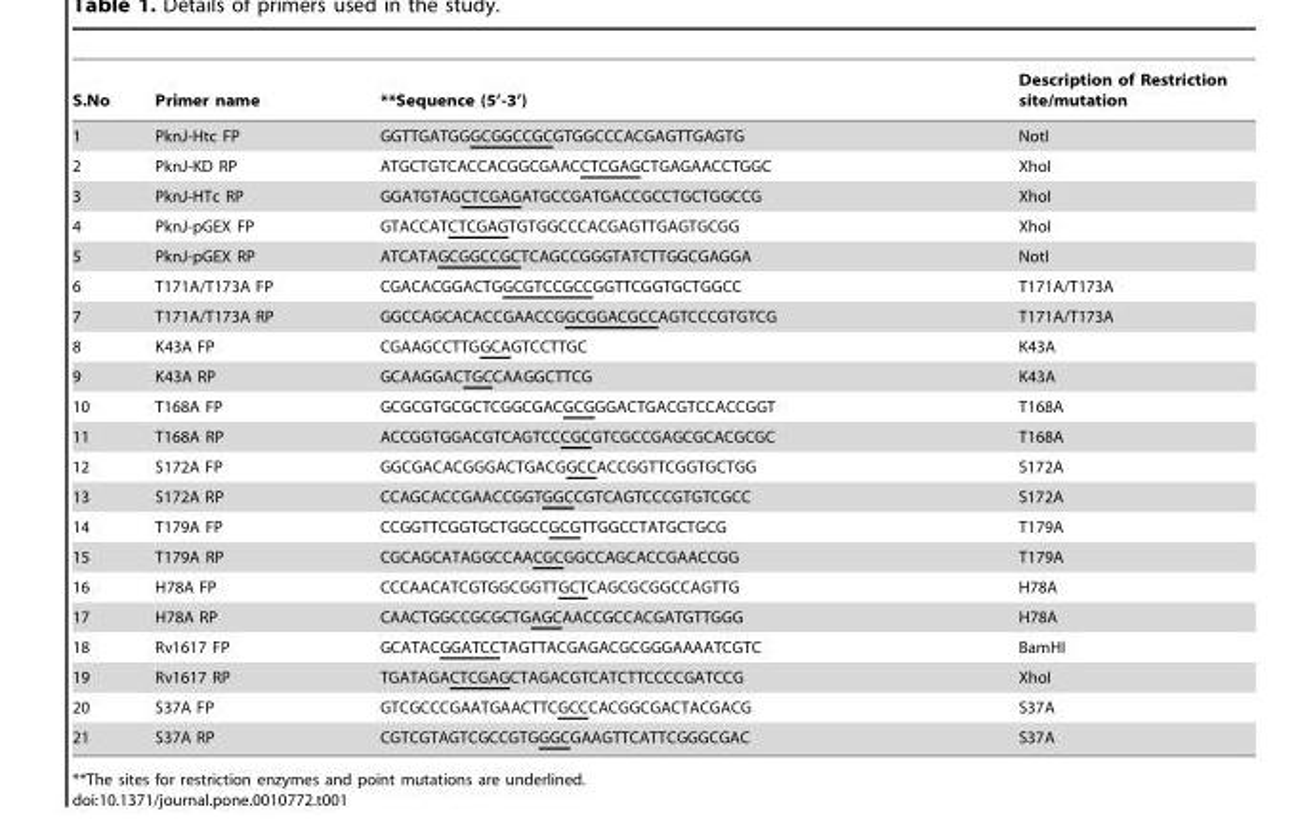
<table><thead><tr><td>S.No</td><td>Primer name</td><td>**Sequence (5’-3’)</td><td>Description of Restriction site/mutation</td></tr></thead><tbody><tr><td>1</td><td>PknJ-Htc FP</td><td>GGTTGATGGGCGGCCGCGTGGCCCACGAGTTGAGTG</td><td>NotI</td></tr><tr><td>2</td><td>PknJ-KD RP</td><td>ATGCTGTCACCACGGCGAACCTCGAGCTGAGAACCTGGC</td><td>XhoI</td></tr><tr><td>3</td><td>PknJ-HTc RP</td><td>GGATGTAGCTCGAGATGCCGATGACCGCCTGCTGGCCG</td><td>XhoI</td></tr><tr><td>4</td><td>PknJ-pGEX FP</td><td>GTACCATCTCGAGTGTGGCCCACGAGTTGAGTGCGG</td><td>XhoI</td></tr><tr><td>5</td><td>PknJ-pGEX RP</td><td>ATCATAGCGGCCGCTCAGCCGGGTATCTTGGCGAGGA</td><td>NotI</td></tr><tr><td>6</td><td>T171A/T173A FP</td><td>CGACACGGACTGGCGTCCGCCGGTTCGGTGCTGGCC</td><td>T171A/T173A</td></tr><tr><td>7</td><td>T171A/T173A RP</td><td>GGCCAGCACACCGAACCGGCGGACGCCAGTCCCGTGTCG</td><td>T171A/T173A</td></tr><tr><td>8</td><td>K43A FP</td><td>CGAAGCCTTGGCAGTCCTTGC</td><td>K43A</td></tr><tr><td>9</td><td>K43A RP</td><td>GCAAGGACTGCCAAGGCTTCG</td><td>K43A</td></tr><tr><td>10</td><td>T168A FP</td><td>GCGCGTGCGCTCGGCGACGCGGGACTGACGTCCACCGGT</td><td>T168A</td></tr><tr><td>11</td><td>T168A RP</td><td>ACCGGTGGACGTCAGTCCCGCGTCGCCGAGCGCACGCGC</td><td>T168A</td></tr><tr><td>12</td><td>S172A FP</td><td>GGCGACACGGGACTGACGGCCACCGGTTCGGTGCTGG</td><td>S172A</td></tr><tr><td>13</td><td>S172A RP</td><td>CCAGCACCGAACCGGTGGCCGTCAGTCCCGTGTCGCC</td><td>S172A</td></tr><tr><td>14</td><td>T179A FP</td><td>CCGGTTCGGTGCTGGCCGCGTTGGCCTATGCTGCG</td><td>T179A</td></tr><tr><td>15</td><td>T179A RP</td><td>CGCAGCATAGGCCAACGCGGCCAGCACCGAACCGG</td><td>T179A</td></tr><tr><td>16</td><td>H78A FP</td><td>CCCAACATCGTGGCGGTTGCTCAGCGCGGCCAGTTG</td><td>H78A</td></tr><tr><td>17</td><td>H78A RP</td><td>CAACTGGCCGCGCTGAGCAACCGCCACGATGTTGGG</td><td>H78A</td></tr><tr><td>18</td><td>Rv1617 FP</td><td>GCATACGGATCCTAGTTACGAGACGCGGGAAAATCGTC</td><td>BamHI</td></tr><tr><td>19</td><td>Rv1617 RP</td><td>TGATAGACTCGAGCTAGACGTCATCTTCCCCGATCCG</td><td>XhoI</td></tr><tr><td>20</td><td>S37A FP</td><td>GTCGCCCGAATGAACTTCGCCCACGGCGACTACGACG</td><td>S37A</td></tr><tr><td>21</td><td>S37A RP</td><td>CGTCGTAGTCGCCGTGGGCGAAGTTCATTCGGGCGAC</td><td>S37A</td></tr></tbody></table>